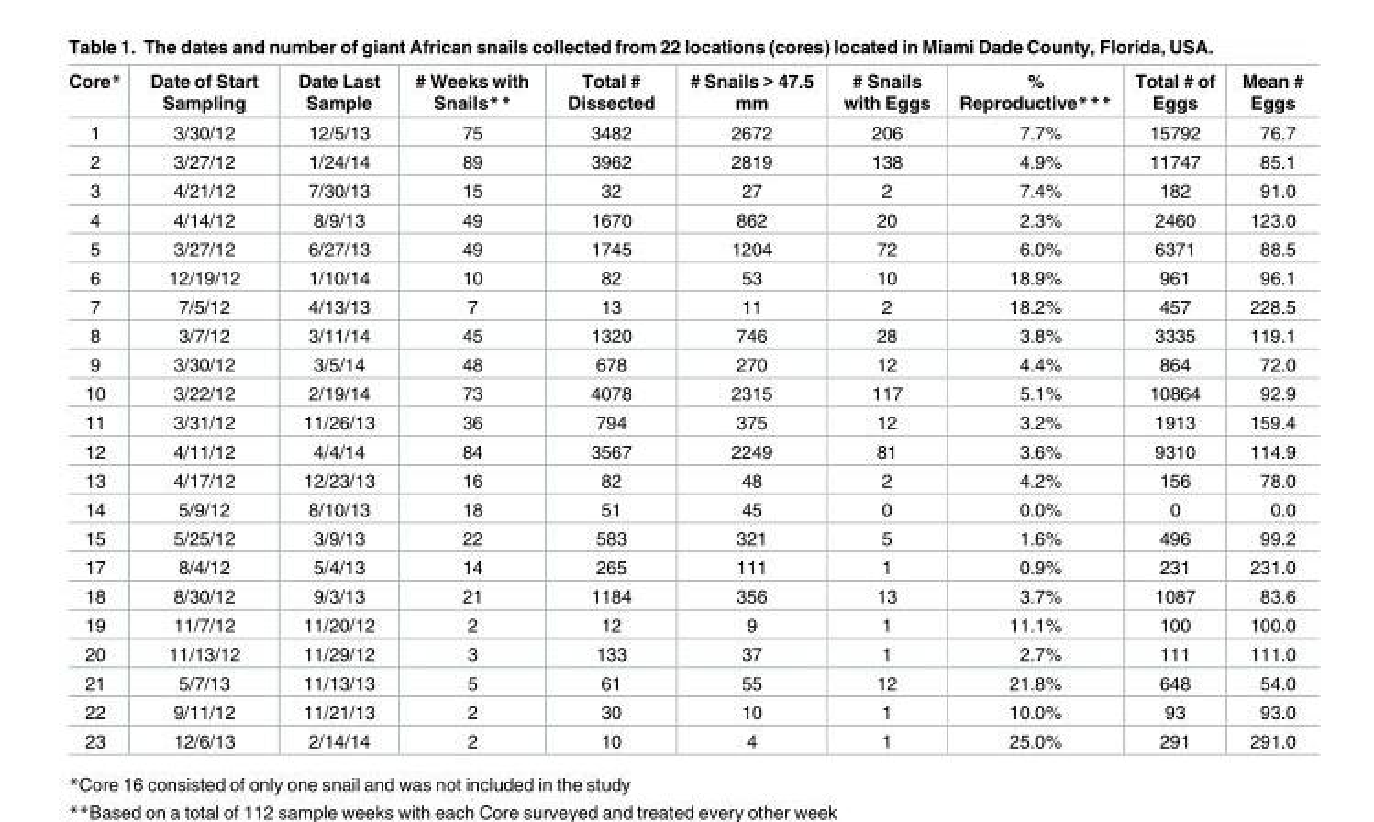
<table><thead><tr><td>Core*</td><td>Date of Start Sampling</td><td>Date Last Sample</td><td># Weeks with Snails**</td><td>Total # Dissected</td><td># Snails &gt; 47.5 mm</td><td># Snails with Eggs</td><td>% Reproductive***</td><td>Total # of Eggs</td><td>Mean # Eggs</td></tr></thead><tbody><tr><td>1</td><td>3/30/12</td><td>12/5/13</td><td>75</td><td>3482</td><td>2672</td><td>206</td><td>7.7%</td><td>15792</td><td>76.7</td></tr><tr><td>2</td><td>3/27/12</td><td>1/24/14</td><td>89</td><td>3962</td><td>2819</td><td>138</td><td>4.9%</td><td>11747</td><td>85.1</td></tr><tr><td>3</td><td>4/21/12</td><td>7/30/13</td><td>15</td><td>32</td><td>27</td><td>2</td><td>7.4%</td><td>182</td><td>91.0</td></tr><tr><td>4</td><td>4/14/12</td><td>8/9/13</td><td>49</td><td>1670</td><td>862</td><td>20</td><td>2.3%</td><td>2460</td><td>123.0</td></tr><tr><td>5</td><td>3/27/12</td><td>6/27/13</td><td>49</td><td>1745</td><td>1204</td><td>72</td><td>6.0%</td><td>6371</td><td>88.5</td></tr><tr><td>6</td><td>12/19/12</td><td>1/10/14</td><td>10</td><td>82</td><td>53</td><td>10</td><td>18.9%</td><td>961</td><td>96.1</td></tr><tr><td>7</td><td>7/5/12</td><td>4/13/13</td><td>7</td><td>13</td><td>11</td><td>2</td><td>18.2%</td><td>457</td><td>228.5</td></tr><tr><td>8</td><td>3/7/12</td><td>3/11/14</td><td>45</td><td>1320</td><td>746</td><td>28</td><td>3.8%</td><td>3335</td><td>119.1</td></tr><tr><td>9</td><td>3/30/12</td><td>3/5/14</td><td>48</td><td>678</td><td>270</td><td>12</td><td>4.4%</td><td>864</td><td>72.0</td></tr><tr><td>10</td><td>3/22/12</td><td>2/19/14</td><td>73</td><td>4078</td><td>2315</td><td>117</td><td>5.1%</td><td>10864</td><td>92.9</td></tr><tr><td>11</td><td>3/31/12</td><td>11/26/13</td><td>36</td><td>794</td><td>375</td><td>12</td><td>3.2%</td><td>1913</td><td>159.4</td></tr><tr><td>12</td><td>4/11/12</td><td>4/4/14</td><td>84</td><td>3567</td><td>2249</td><td>81</td><td>3.6%</td><td>9310</td><td>114.9</td></tr><tr><td>13</td><td>4/17/12</td><td>12/23/13</td><td>16</td><td>82</td><td>48</td><td>2</td><td>4.2%</td><td>156</td><td>78.0</td></tr><tr><td>14</td><td>5/9/12</td><td>8/10/13</td><td>18</td><td>51</td><td>45</td><td>0</td><td>0.0%</td><td>0</td><td>0.0</td></tr><tr><td>15</td><td>5/25/12</td><td>3/9/13</td><td>22</td><td>583</td><td>321</td><td>5</td><td>1.6%</td><td>496</td><td>99.2</td></tr><tr><td>17</td><td>8/4/12</td><td>5/4/13</td><td>14</td><td>265</td><td>111</td><td>1</td><td>0.9%</td><td>231</td><td>231.0</td></tr><tr><td>18</td><td>8/30/12</td><td>9/3/13</td><td>21</td><td>1184</td><td>356</td><td>13</td><td>3.7%</td><td>1087</td><td>83.6</td></tr><tr><td>19</td><td>11/7/12</td><td>11/20/12</td><td>2</td><td>12</td><td>9</td><td>1</td><td>11.1%</td><td>100</td><td>100.0</td></tr><tr><td>20</td><td>11/13/12</td><td>11/29/12</td><td>3</td><td>133</td><td>37</td><td>1</td><td>2.7%</td><td>111</td><td>111.0</td></tr><tr><td>21</td><td>5/7/13</td><td>11/13/13</td><td>5</td><td>61</td><td>55</td><td>12</td><td>21.8%</td><td>648</td><td>54.0</td></tr><tr><td>22</td><td>9/11/12</td><td>11/21/13</td><td>2</td><td>30</td><td>10</td><td>1</td><td>10.0%</td><td>93</td><td>93.0</td></tr><tr><td>23</td><td>12/6/13</td><td>2/14/14</td><td>2</td><td>10</td><td>4</td><td>1</td><td>25.0%</td><td>291</td><td>291.0</td></tr></tbody></table>